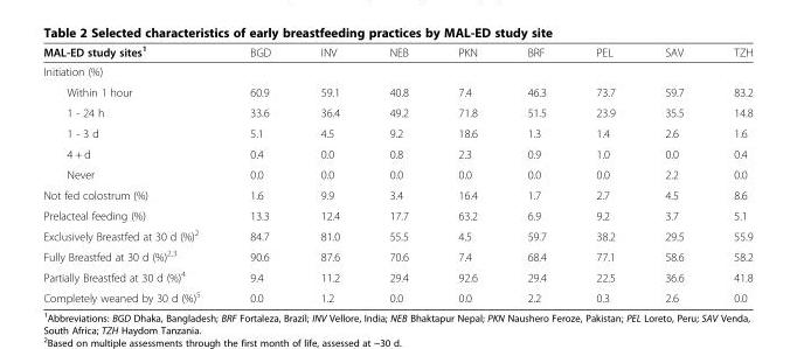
<table><thead><tr><td>MAL-ED study sites<sup>1</sup></td><td>BGD</td><td>INV</td><td>NEB</td><td>PKN</td><td>BRF</td><td>PEL</td><td>SAV</td><td>TZH</td></tr></thead><tbody><tr><td colspan="9">Initiation (%)</td></tr><tr><td>Within 1 hour</td><td>60.9</td><td>59.1</td><td>40.8</td><td>7.4</td><td>46.3</td><td>73.7</td><td>59.7</td><td>83.2</td></tr><tr><td>1 - 24 h</td><td>33.6</td><td>36.4</td><td>49.2</td><td>71.8</td><td>51.5</td><td>23.9</td><td>35.5</td><td>14.8</td></tr><tr><td>1 - 3 d</td><td>5.1</td><td>4.5</td><td>9.2</td><td>18.6</td><td>1.3</td><td>1.4</td><td>2.6</td><td>1.6</td></tr><tr><td>4 + d</td><td>0.4</td><td>0.0</td><td>0.8</td><td>2.3</td><td>0.9</td><td>1.0</td><td>0.0</td><td>0.4</td></tr><tr><td>Never</td><td>0.0</td><td>0.0</td><td>0.0</td><td>0.0</td><td>0.0</td><td>0.0</td><td>2.2</td><td>0.0</td></tr><tr><td>Not fed colostrum (%)</td><td>1.6</td><td>9.9</td><td>3.4</td><td>16.4</td><td>1.7</td><td>2.7</td><td>4.5</td><td>8.6</td></tr><tr><td>Prelacteal feeding (%)</td><td>13.3</td><td>12.4</td><td>17.7</td><td>63.2</td><td>6.9</td><td>9.2</td><td>3.7</td><td>5.1</td></tr><tr><td>Exclusively Breastfed at 30 d (%)<sup>2</sup></td><td>84.7</td><td>81.0</td><td>55.5</td><td>4.5</td><td>59.7</td><td>38.2</td><td>29.5</td><td>55.9</td></tr><tr><td>Fully Breastfed at 30 d (%)<sup>2,3</sup></td><td>90.6</td><td>87.6</td><td>70.6</td><td>7.4</td><td>68.4</td><td>77.1</td><td>58.6</td><td>58.2</td></tr><tr><td>Partially Breastfed at 30 d (%)<sup>4</sup></td><td>9.4</td><td>11.2</td><td>29.4</td><td>92.6</td><td>29.4</td><td>22.5</td><td>36.6</td><td>41.8</td></tr><tr><td>Completely weaned by 30 d (%)<sup>5</sup></td><td>0.0</td><td>1.2</td><td>0.0</td><td>0.0</td><td>2.2</td><td>0.3</td><td>2.6</td><td>0.0</td></tr></tbody></table>